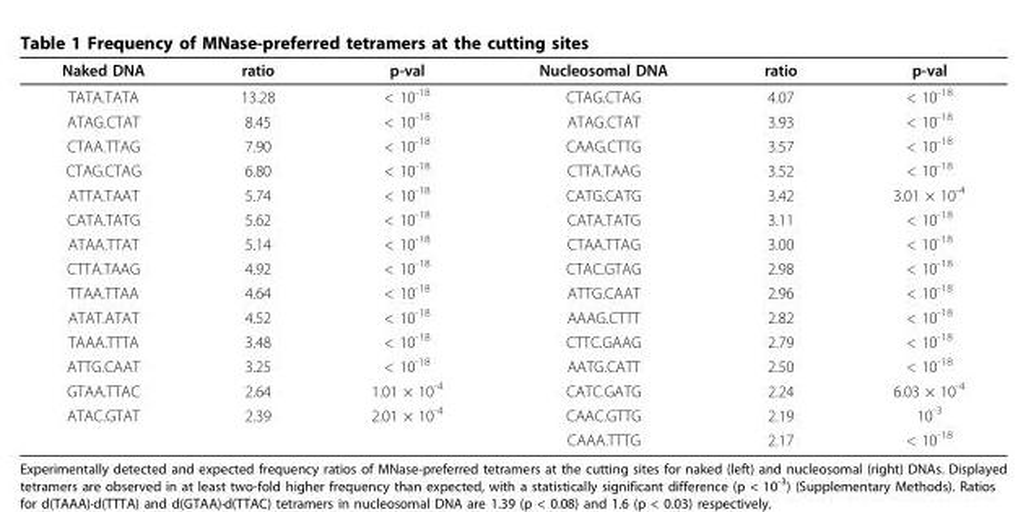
<table><thead><tr><td>Naked DNA</td><td>ratio</td><td>p-val</td><td>Nucleosomal DNA</td><td>ratio</td><td>p-val</td></tr></thead><tbody><tr><td>TATA.TATA</td><td>13.28</td><td>&lt; 10<sup>-18</sup></td><td>CTAG.CTAG</td><td>4.07</td><td>&lt; 10<sup>-18</sup></td></tr><tr><td>ATAG.CTAT</td><td>8.45</td><td>&lt; 10<sup>-18</sup></td><td>ATAG.CTAT</td><td>3.93</td><td>&lt; 10<sup>-18</sup></td></tr><tr><td>CTAA.TTAG</td><td>7.90</td><td>&lt; 10<sup>-18</sup></td><td>CAAG.CTTG</td><td>3.57</td><td>&lt; 10<sup>-18</sup></td></tr><tr><td>CTAG.CTAG</td><td>6.80</td><td>&lt; 10<sup>-18</sup></td><td>CTTA.TAAG</td><td>3.52</td><td>&lt; 10<sup>-18</sup></td></tr><tr><td>ATTA.TAAT</td><td>5.74</td><td>&lt; 10<sup>-18</sup></td><td>CATG.CATG</td><td>3.42</td><td>3.01 × 10<sup>-4</sup></td></tr><tr><td>CATA.TATG</td><td>5.62</td><td>&lt; 10<sup>-18</sup></td><td>CATA.TATG</td><td>3.11</td><td>&lt; 10<sup>-18</sup></td></tr><tr><td>ATAA.TTAT</td><td>5.14</td><td>&lt; 10<sup>-18</sup></td><td>CTAA.TTAG</td><td>3.00</td><td>&lt; 10<sup>-18</sup></td></tr><tr><td>CTTA.TAAG</td><td>4.92</td><td>&lt; 10<sup>-18</sup></td><td>CTAC.GTAG</td><td>2.98</td><td>&lt; 10<sup>-18</sup></td></tr><tr><td>TTAA.TTAA</td><td>4.64</td><td>&lt; 10<sup>-18</sup></td><td>ATTG.CAAT</td><td>2.96</td><td>&lt; 10<sup>-18</sup></td></tr><tr><td>ATAT.ATAT</td><td>4.52</td><td>&lt; 10<sup>-18</sup></td><td>AAAG.CTTT</td><td>2.82</td><td>&lt; 10<sup>-18</sup></td></tr><tr><td>TAAA.TTTA</td><td>3.48</td><td>&lt; 10<sup>-18</sup></td><td>CTTC.GAAG</td><td>2.79</td><td>&lt; 10<sup>-18</sup></td></tr><tr><td>ATTG.CAAT</td><td>3.25</td><td>&lt; 10<sup>-18</sup></td><td>AATG.CATT</td><td>2.50</td><td>&lt; 10<sup>-18</sup></td></tr><tr><td>GTAA.TTAC</td><td>2.64</td><td>1.01 × 10<sup>-4</sup></td><td>CATC.GATG</td><td>2.24</td><td>6.03 × 10<sup>-4</sup></td></tr><tr><td rowspan="2">ATAC.GTAT</td><td>2.39</td><td>2.01 × 10<sup>-4</sup></td><td>CAAC.GTTG</td><td>2.19</td><td>10<sup>-3</sup></td></tr><tr><td></td><td></td><td>CAAA.TTTG</td><td>2.17</td><td>&lt; 10<sup>-18</sup></td></tr></tbody></table>